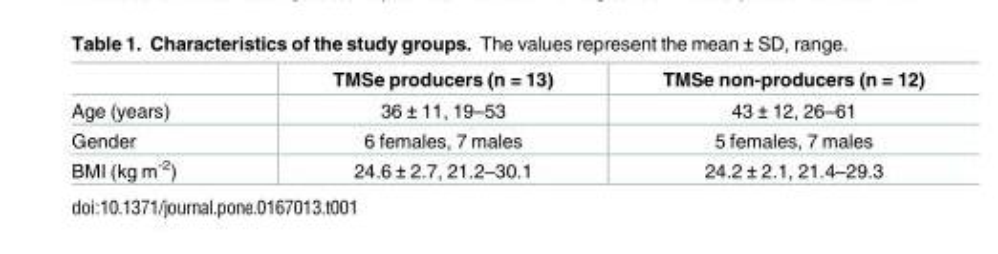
<table><thead><tr><td></td><td>TMSe producers (n = 13)</td><td>TMSe non-producers (n = 12)</td></tr></thead><tbody><tr><td>Age (years)</td><td>36 ± 11, 19–53</td><td>43 ± 12, 26–61</td></tr><tr><td>Gender</td><td>6 females, 7 males</td><td>5 females, 7 males</td></tr><tr><td>BMI (kg m<sup>-2</sup>)</td><td>24.6 ± 2.7, 21.2–30.1</td><td>24.2 ± 2.1, 21.4–29.3</td></tr></tbody></table>